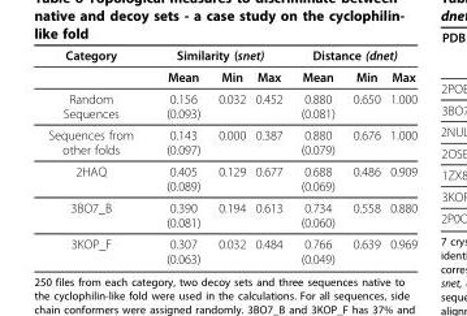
<table><thead><tr><td rowspan="2">Category</td><td colspan="3">Similarity (snet)</td><td colspan="3">Distance (dnet)</td></tr><tr><td>Mean</td><td>Min</td><td>Max</td><td>Mean</td><td>Min</td><td>Max</td></tr></thead><tbody><tr><td>Random Sequences</td><td>0.156 (0.093)</td><td>0.032</td><td>0.452</td><td>0.880 (0.081)</td><td>0.650</td><td>1.000</td></tr><tr><td>Sequences from other folds</td><td>0.143 (0.097)</td><td>0.000</td><td>0.387</td><td>0.880 (0.079)</td><td>0.676</td><td>1.000</td></tr><tr><td>2HAQ</td><td>0.405 (0.089)</td><td>0.129</td><td>0.677</td><td>0.688 (0.069)</td><td>0.486</td><td>0.909</td></tr><tr><td>3BO7_B</td><td>0.390 (0.081)</td><td>0.194</td><td>0.613</td><td>0.734 (0.060)</td><td>0.558</td><td>0.880</td></tr><tr><td>3KOP_F</td><td>0.307 (0.063)</td><td>0.032</td><td>0.484</td><td>0.766 (0.049)</td><td>0.639</td><td>0.969</td></tr></tbody></table>